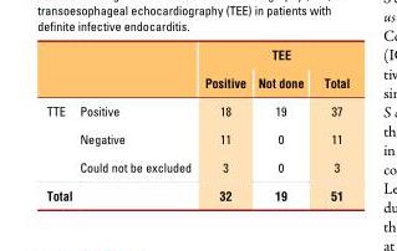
<table><thead><tr><td rowspan="2"></td><td rowspan="2"></td><td rowspan="2">Positive</td><td rowspan="2">TEE Not done</td><td rowspan="2">Total</td></tr><tr></tr></thead><tbody><tr><td rowspan="3">TTE</td><td>Positive</td><td>18</td><td>19</td><td>37</td></tr><tr><td>Negative</td><td>11</td><td>0</td><td>11</td></tr><tr><td>Could not be excluded</td><td>3</td><td>0</td><td>3</td></tr><tr><td>Total</td><td></td><td>32</td><td>19</td><td>51</td></tr></tbody></table>